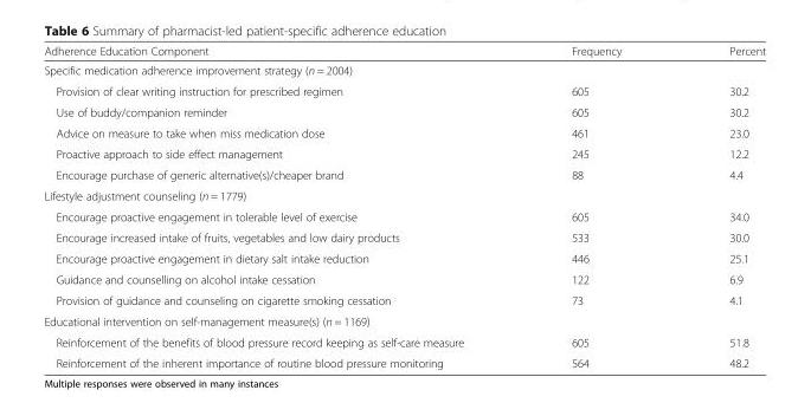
<table><thead><tr><td>Adherence Education Component</td><td>Frequency</td><td>Percent</td></tr></thead><tbody><tr><td colspan="3">Specific medication adherence improvement strategy (n = 2004)</td></tr><tr><td>Provision of clear writing instruction for prescribed regimen</td><td>605</td><td>30.2</td></tr><tr><td>Use of buddy/companion reminder</td><td>605</td><td>30.2</td></tr><tr><td>Advice on measure to take when miss medication dose</td><td>461</td><td>23.0</td></tr><tr><td>Proactive approach to side effect management</td><td>245</td><td>12.2</td></tr><tr><td>Encourage purchase of generic alternative(s)/cheaper brand</td><td>88</td><td>4.4</td></tr><tr><td colspan="3">Lifestyle adjustment counseling (n = 1779)</td></tr><tr><td>Encourage proactive engagement in tolerable level of exercise</td><td>605</td><td>34.0</td></tr><tr><td>Encourage increased intake of fruits, vegetables and low dairy products</td><td>533</td><td>30.0</td></tr><tr><td>Encourage proactive engagement in dietary salt intake reduction</td><td>446</td><td>25.1</td></tr><tr><td>Guidance and counselling on alcohol intake cessation</td><td>122</td><td>6.9</td></tr><tr><td>Provision of guidance and counseling on cigarette smoking cessation</td><td>73</td><td>4.1</td></tr><tr><td colspan="3">Educational intervention on self-management measure(s) (n = 1169)</td></tr><tr><td>Reinforcement of the benefits of blood pressure record keeping as self-care measure</td><td>605</td><td>51.8</td></tr><tr><td>Reinforcement of the inherent importance of routine blood pressure monitoring</td><td>564</td><td>48.2</td></tr></tbody></table>